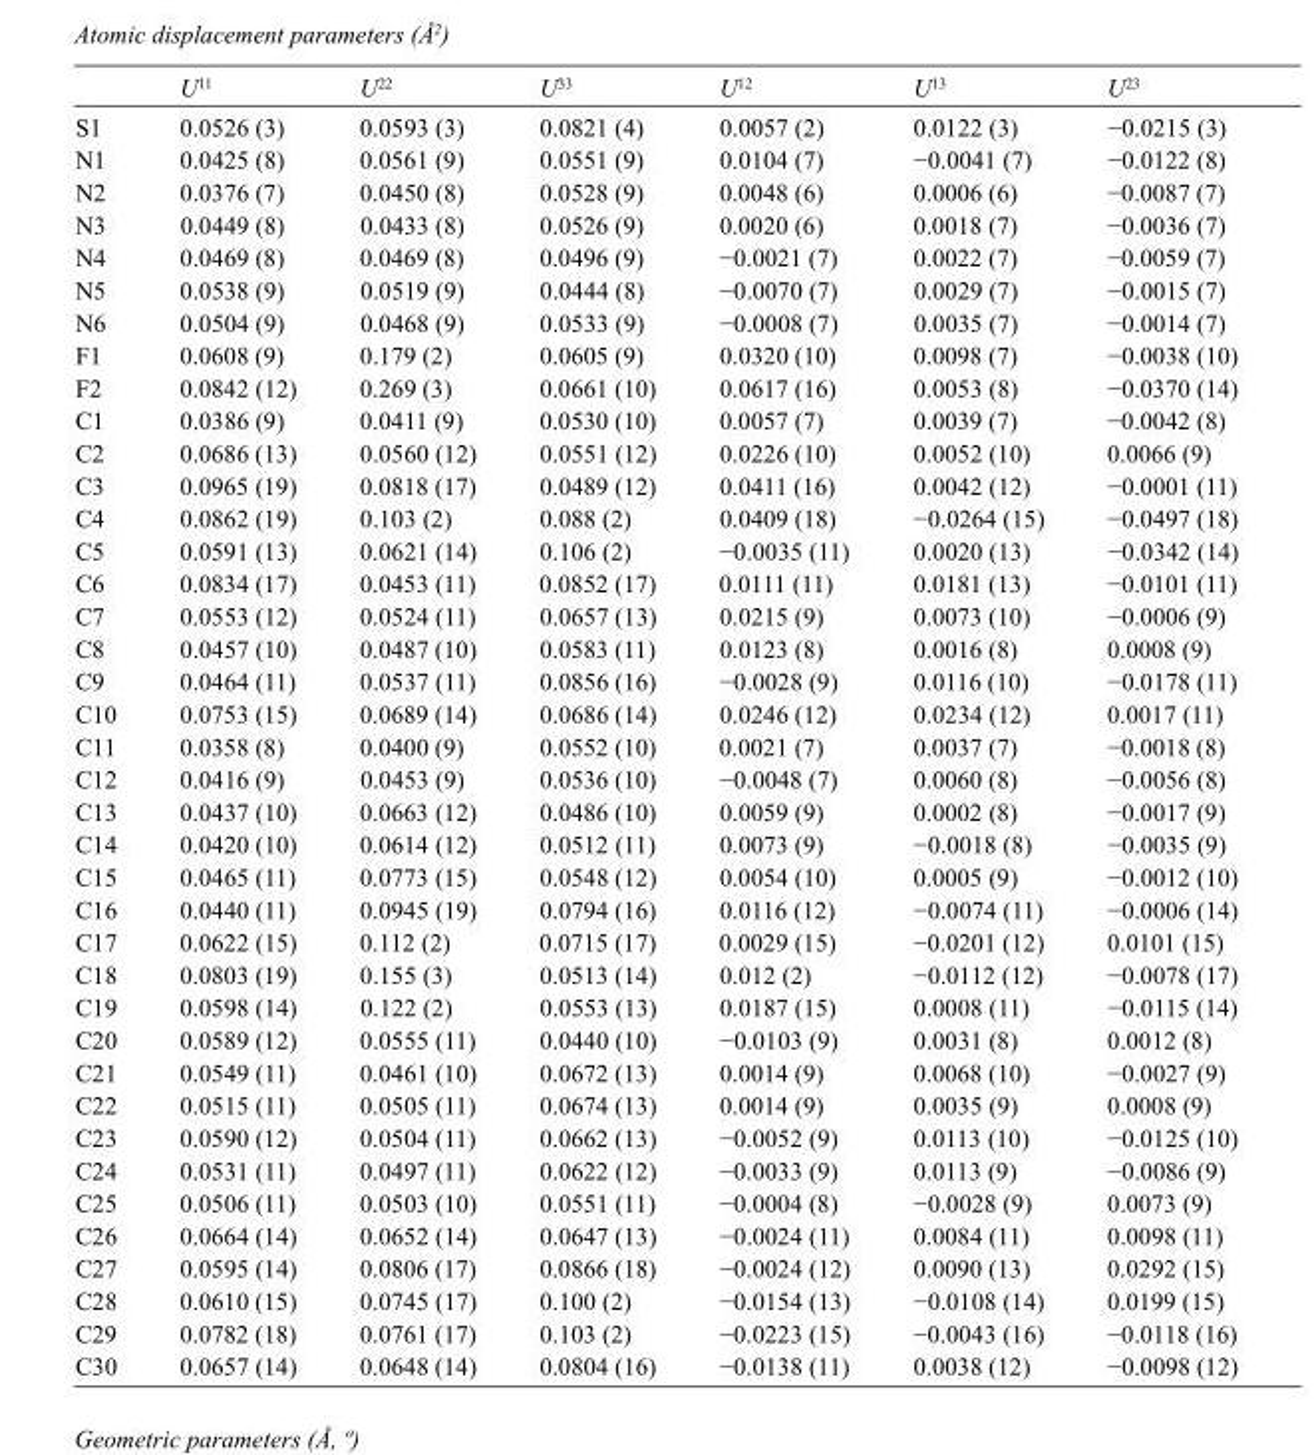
<table><thead><tr><td></td><td>U<sup>11</sup></td><td>U<sup>22</sup></td><td>U<sup>33</sup></td><td>U<sup>12</sup></td><td>U<sup>13</sup></td><td>U<sup>23</sup></td></tr></thead><tbody><tr><td>S1</td><td>0.0526 (3)</td><td>0.0593 (3)</td><td>0.0821 (4)</td><td>0.0057 (2)</td><td>0.0122 (3)</td><td>−0.0215 (3)</td></tr><tr><td>N1</td><td>0.0425 (8)</td><td>0.0561 (9)</td><td>0.0551 (9)</td><td>0.0104 (7)</td><td>−0.0041 (7)</td><td>−0.0122 (8)</td></tr><tr><td>N2</td><td>0.0376 (7)</td><td>0.0450 (8)</td><td>0.0528 (9)</td><td>0.0048 (6)</td><td>0.0006 (6)</td><td>−0.0087 (7)</td></tr><tr><td>N3</td><td>0.0449 (8)</td><td>0.0433 (8)</td><td>0.0526 (9)</td><td>0.0020 (6)</td><td>0.0018 (7)</td><td>−0.0036 (7)</td></tr><tr><td>N4</td><td>0.0469 (8)</td><td>0.0469 (8)</td><td>0.0496 (9)</td><td>−0.0021 (7)</td><td>0.0022 (7)</td><td>−0.0059 (7)</td></tr><tr><td>N5</td><td>0.0538 (9)</td><td>0.0519 (9)</td><td>0.0444 (8)</td><td>−0.0070 (7)</td><td>0.0029 (7)</td><td>−0.0015 (7)</td></tr><tr><td>N6</td><td>0.0504 (9)</td><td>0.0468 (9)</td><td>0.0533 (9)</td><td>−0.0008 (7)</td><td>0.0035 (7)</td><td>−0.0014 (7)</td></tr><tr><td>F1</td><td>0.0608 (9)</td><td>0.179 (2)</td><td>0.0605 (9)</td><td>0.0320 (10)</td><td>0.0098 (7)</td><td>−0.0038 (10)</td></tr><tr><td>F2</td><td>0.0842 (12)</td><td>0.269 (3)</td><td>0.0661 (10)</td><td>0.0617 (16)</td><td>0.0053 (8)</td><td>−0.0370 (14)</td></tr><tr><td>C1</td><td>0.0386 (9)</td><td>0.0411 (9)</td><td>0.0530 (10)</td><td>0.0057 (7)</td><td>0.0039 (7)</td><td>−0.0042 (8)</td></tr><tr><td>C2</td><td>0.0686 (13)</td><td>0.0560 (12)</td><td>0.0551 (12)</td><td>0.0226 (10)</td><td>0.0052 (10)</td><td>0.0066 (9)</td></tr><tr><td>C3</td><td>0.0965 (19)</td><td>0.0818 (17)</td><td>0.0489 (12)</td><td>0.0411 (16)</td><td>0.0042 (12)</td><td>−0.0001 (11)</td></tr><tr><td>C4</td><td>0.0862 (19)</td><td>0.103 (2)</td><td>0.088 (2)</td><td>0.0409 (18)</td><td>−0.0264 (15)</td><td>−0.0497 (18)</td></tr><tr><td>C5</td><td>0.0591 (13)</td><td>0.0621 (14)</td><td>0.106 (2)</td><td>−0.0035 (11)</td><td>0.0020 (13)</td><td>−0.0342 (14)</td></tr><tr><td>C6</td><td>0.0834 (17)</td><td>0.0453 (11)</td><td>0.0852 (17)</td><td>0.0111 (11)</td><td>0.0181 (13)</td><td>−0.0101 (11)</td></tr><tr><td>C7</td><td>0.0553 (12)</td><td>0.0524 (11)</td><td>0.0657 (13)</td><td>0.0215 (9)</td><td>0.0073 (10)</td><td>−0.0006 (9)</td></tr><tr><td>C8</td><td>0.0457 (10)</td><td>0.0487 (10)</td><td>0.0583 (11)</td><td>0.0123 (8)</td><td>0.0016 (8)</td><td>0.0008 (9)</td></tr><tr><td>C9</td><td>0.0464 (11)</td><td>0.0537 (11)</td><td>0.0856 (16)</td><td>−0.0028 (9)</td><td>0.0116 (10)</td><td>−0.0178 (11)</td></tr><tr><td>C10</td><td>0.0753 (15)</td><td>0.0689 (14)</td><td>0.0686 (14)</td><td>0.0246 (12)</td><td>0.0234 (12)</td><td>0.0017 (11)</td></tr><tr><td>C11</td><td>0.0358 (8)</td><td>0.0400 (9)</td><td>0.0552 (10)</td><td>0.0021 (7)</td><td>0.0037 (7)</td><td>−0.0018 (8)</td></tr><tr><td>C12</td><td>0.0416 (9)</td><td>0.0453 (9)</td><td>0.0536 (10)</td><td>−0.0048 (7)</td><td>0.0060 (8)</td><td>−0.0056 (8)</td></tr><tr><td>C13</td><td>0.0437 (10)</td><td>0.0663 (12)</td><td>0.0486 (10)</td><td>0.0059 (9)</td><td>0.0002 (8)</td><td>−0.0017 (9)</td></tr><tr><td>C14</td><td>0.0420 (10)</td><td>0.0614 (12)</td><td>0.0512 (11)</td><td>0.0073 (9)</td><td>−0.0018 (8)</td><td>−0.0035 (9)</td></tr><tr><td>C15</td><td>0.0465 (11)</td><td>0.0773 (15)</td><td>0.0548 (12)</td><td>0.0054 (10)</td><td>0.0005 (9)</td><td>−0.0012 (10)</td></tr><tr><td>C16</td><td>0.0440 (11)</td><td>0.0945 (19)</td><td>0.0794 (16)</td><td>0.0116 (12)</td><td>−0.0074 (11)</td><td>−0.0006 (14)</td></tr><tr><td>C17</td><td>0.0622 (15)</td><td>0.112 (2)</td><td>0.0715 (17)</td><td>0.0029 (15)</td><td>−0.0201 (12)</td><td>0.0101 (15)</td></tr><tr><td>C18</td><td>0.0803 (19)</td><td>0.155 (3)</td><td>0.0513 (14)</td><td>0.012 (2)</td><td>−0.0112 (12)</td><td>−0.0078 (17)</td></tr><tr><td>C19</td><td>0.0598 (14)</td><td>0.122 (2)</td><td>0.0553 (13)</td><td>0.0187 (15)</td><td>0.0008 (11)</td><td>−0.0115 (14)</td></tr><tr><td>C20</td><td>0.0589 (12)</td><td>0.0555 (11)</td><td>0.0440 (10)</td><td>−0.0103 (9)</td><td>0.0031 (8)</td><td>0.0012 (8)</td></tr><tr><td>C21</td><td>0.0549 (11)</td><td>0.0461 (10)</td><td>0.0672 (13)</td><td>0.0014 (9)</td><td>0.0068 (10)</td><td>−0.0027 (9)</td></tr><tr><td>C22</td><td>0.0515 (11)</td><td>0.0505 (11)</td><td>0.0674 (13)</td><td>0.0014 (9)</td><td>0.0035 (9)</td><td>0.0008 (9)</td></tr><tr><td>C23</td><td>0.0590 (12)</td><td>0.0504 (11)</td><td>0.0662 (13)</td><td>−0.0052 (9)</td><td>0.0113 (10)</td><td>−0.0125 (10)</td></tr><tr><td>C24</td><td>0.0531 (11)</td><td>0.0497 (11)</td><td>0.0622 (12)</td><td>−0.0033 (9)</td><td>0.0113 (9)</td><td>−0.0086 (9)</td></tr><tr><td>C25</td><td>0.0506 (11)</td><td>0.0503 (10)</td><td>0.0551 (11)</td><td>−0.0004 (8)</td><td>−0.0028 (9)</td><td>0.0073 (9)</td></tr><tr><td>C26</td><td>0.0664 (14)</td><td>0.0652 (14)</td><td>0.0647 (13)</td><td>−0.0024 (11)</td><td>0.0084 (11)</td><td>0.0098 (11)</td></tr><tr><td>C27</td><td>0.0595 (14)</td><td>0.0806 (17)</td><td>0.0866 (18)</td><td>−0.0024 (12)</td><td>0.0090 (13)</td><td>0.0292 (15)</td></tr><tr><td>C28</td><td>0.0610 (15)</td><td>0.0745 (17)</td><td>0.100 (2)</td><td>−0.0154 (13)</td><td>−0.0108 (14)</td><td>0.0199 (15)</td></tr><tr><td>C29</td><td>0.0782 (18)</td><td>0.0761 (17)</td><td>0.103 (2)</td><td>−0.0223 (15)</td><td>−0.0043 (16)</td><td>−0.0118 (16)</td></tr><tr><td>C30</td><td>0.0657 (14)</td><td>0.0648 (14)</td><td>0.0804 (16)</td><td>−0.0138 (11)</td><td>0.0038 (12)</td><td>−0.0098 (12)</td></tr></tbody></table>